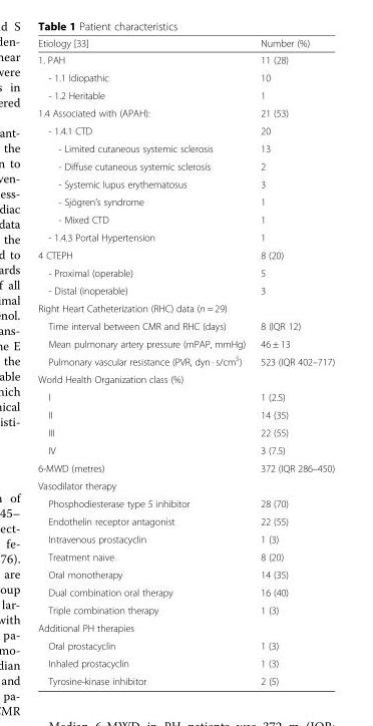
<table><thead><tr><td>Etiology [33]</td><td>Number (%)</td></tr></thead><tbody><tr><td>1. PAH</td><td>11 (28)</td></tr><tr><td>- 1.1 Idiopathic</td><td>10</td></tr><tr><td>- 1.2 Heritable</td><td>1</td></tr><tr><td>1.4 Associated with (APAH):</td><td>21 (53)</td></tr><tr><td>- 1.4.1 CTD</td><td>20</td></tr><tr><td>- Limited cutaneous systemic sclerosis</td><td>13</td></tr><tr><td>- Diffuse cutaneous systemic sclerosis</td><td>2</td></tr><tr><td>- Systemic lupus erythematosus</td><td>3</td></tr><tr><td>- Sjögren’s syndrome</td><td>1</td></tr><tr><td>- Mixed CTD</td><td>1</td></tr><tr><td>- 1.4.3 Portal Hypertension</td><td>1</td></tr><tr><td>4 CTEPH</td><td>8 (20)</td></tr><tr><td>- Proximal (operable)</td><td>5</td></tr><tr><td>- Distal (inoperable)</td><td>3</td></tr><tr><td colspan="2">Right Heart Catheterization (RHC) data (n = 29)</td></tr><tr><td>Time interval between CMR and RHC (days)</td><td>8 (IQR 12)</td></tr><tr><td>Mean pulmonary artery pressure (mPAP, mmHg)</td><td>46 ± 13</td></tr><tr><td>Pulmonary vascular resistance (PVR, dyn · s/cm<sup>5</sup>)</td><td>523 (IQR 402–717)</td></tr><tr><td colspan="2">World Health Organization class (%)</td></tr><tr><td>I</td><td>1 (2.5)</td></tr><tr><td>II</td><td>14 (35)</td></tr><tr><td>III</td><td>22 (55)</td></tr><tr><td>IV</td><td>3 (7.5)</td></tr><tr><td>6-MWD (metres)</td><td>372 (IQR 286–450)</td></tr><tr><td colspan="2">Vasodilator therapy</td></tr><tr><td>Phosphodiesterase type 5 inhibitor</td><td>28 (70)</td></tr><tr><td>Endothelin receptor antagonist</td><td>22 (55)</td></tr><tr><td>Intravenous prostacyclin</td><td>1 (3)</td></tr><tr><td>Treatment naive</td><td>8 (20)</td></tr><tr><td>Oral monotherapy</td><td>14 (35)</td></tr><tr><td>Dual combination oral therapy</td><td>16 (40)</td></tr><tr><td>Triple combination therapy</td><td>1 (3)</td></tr><tr><td colspan="2">Additional PH therapies</td></tr><tr><td>Oral prostacyclin</td><td>1 (3)</td></tr><tr><td>Inhaled prostacyclin</td><td>1 (3)</td></tr><tr><td>Tyrosine-kinase inhibitor</td><td>2 (5)</td></tr></tbody></table>